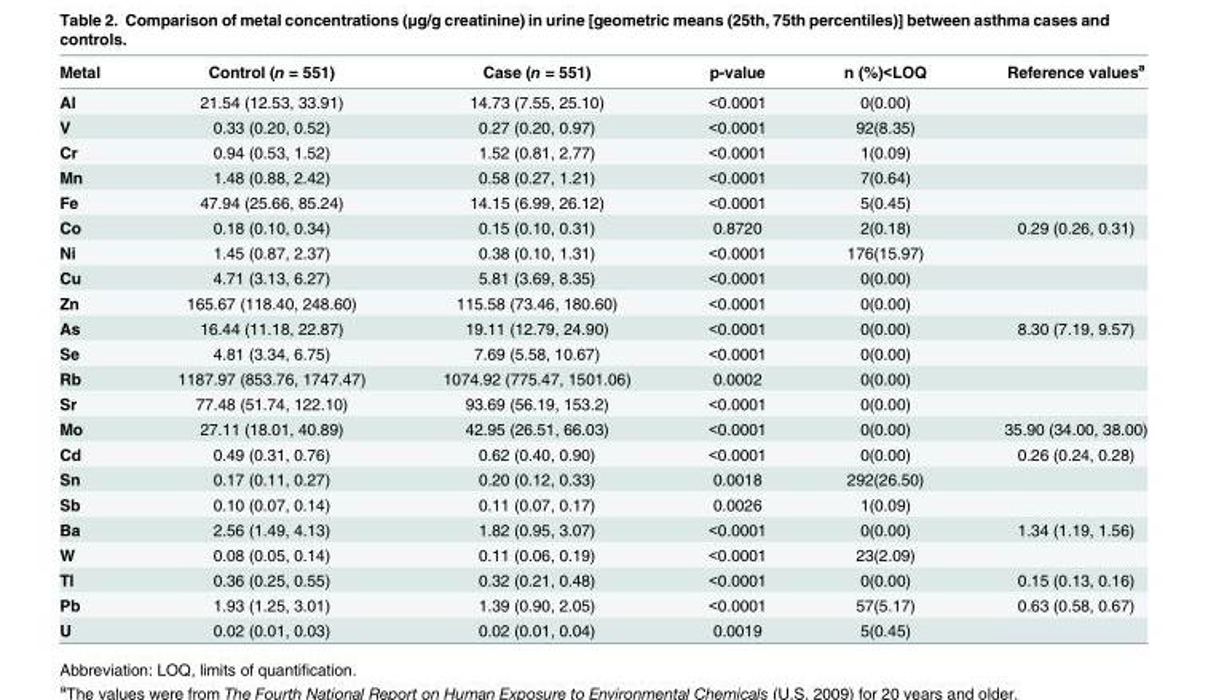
<table><thead><tr><td>Metal</td><td>Control (n = 551)</td><td>Case (n = 551)</td><td>p-value</td><td>n (%)&lt;LOQ</td><td>Reference values<sup>a</sup></td></tr></thead><tbody><tr><td>Al</td><td>21.54 (12.53, 33.91)</td><td>14.73 (7.55, 25.10)</td><td>&lt;0.0001</td><td>0(0.00)</td><td></td></tr><tr><td>V</td><td>0.33 (0.20, 0.52)</td><td>0.27 (0.20, 0.97)</td><td>&lt;0.0001</td><td>92(8.35)</td><td></td></tr><tr><td>Cr</td><td>0.94 (0.53, 1.52)</td><td>1.52 (0.81, 2.77)</td><td>&lt;0.0001</td><td>1(0.09)</td><td></td></tr><tr><td>Mn</td><td>1.48 (0.88, 2.42)</td><td>0.58 (0.27, 1.21)</td><td>&lt;0.0001</td><td>7(0.64)</td><td></td></tr><tr><td>Fe</td><td>47.94 (25.66, 85.24)</td><td>14.15 (6.99, 26.12)</td><td>&lt;0.0001</td><td>5(0.45)</td><td></td></tr><tr><td>Co</td><td>0.18 (0.10, 0.34)</td><td>0.15 (0.10, 0.31)</td><td>0.8720</td><td>2(0.18)</td><td>0.29 (0.26, 0.31)</td></tr><tr><td>Ni</td><td>1.45 (0.87, 2.37)</td><td>0.38 (0.10, 1.31)</td><td>&lt;0.0001</td><td>176(15.97)</td><td></td></tr><tr><td>Cu</td><td>4.71 (3.13, 6.27)</td><td>5.81 (3.69, 8.35)</td><td>&lt;0.0001</td><td>0(0.00)</td><td></td></tr><tr><td>Zn</td><td>165.67 (118.40, 248.60)</td><td>115.58 (73.46, 180.60)</td><td>&lt;0.0001</td><td>0(0.00)</td><td></td></tr><tr><td>As</td><td>16.44 (11.18, 22.87)</td><td>19.11 (12.79, 24.90)</td><td>&lt;0.0001</td><td>0(0.00)</td><td>8.30 (7.19, 9.57)</td></tr><tr><td>Se</td><td>4.81 (3.34, 6.75)</td><td>7.69 (5.58, 10.67)</td><td>&lt;0.0001</td><td>0(0.00)</td><td></td></tr><tr><td>Rb</td><td>1187.97 (853.76, 1747.47)</td><td>1074.92 (775.47, 1501.06)</td><td>0.0002</td><td>0(0.00)</td><td></td></tr><tr><td>Sr</td><td>77.48 (51.74, 122.10)</td><td>93.69 (56.19, 153.2)</td><td>&lt;0.0001</td><td>0(0.00)</td><td></td></tr><tr><td>Mo</td><td>27.11 (18.01, 40.89)</td><td>42.95 (26.51, 66.03)</td><td>&lt;0.0001</td><td>0(0.00)</td><td>35.90 (34.00, 38.00)</td></tr><tr><td>Cd</td><td>0.49 (0.31, 0.76)</td><td>0.62 (0.40, 0.90)</td><td>&lt;0.0001</td><td>0(0.00)</td><td>0.26 (0.24, 0.28)</td></tr><tr><td>Sn</td><td>0.17 (0.11, 0.27)</td><td>0.20 (0.12, 0.33)</td><td>0.0018</td><td>292(26.50)</td><td></td></tr><tr><td>Sb</td><td>0.10 (0.07, 0.14)</td><td>0.11 (0.07, 0.17)</td><td>0.0026</td><td>1(0.09)</td><td></td></tr><tr><td>Ba</td><td>2.56 (1.49, 4.13)</td><td>1.82 (0.95, 3.07)</td><td>&lt;0.0001</td><td>0(0.00)</td><td>1.34 (1.19, 1.56)</td></tr><tr><td>W</td><td>0.08 (0.05, 0.14)</td><td>0.11 (0.06, 0.19)</td><td>&lt;0.0001</td><td>23(2.09)</td><td></td></tr><tr><td>Tl</td><td>0.36 (0.25, 0.55)</td><td>0.32 (0.21, 0.48)</td><td>&lt;0.0001</td><td>0(0.00)</td><td>0.15 (0.13, 0.16)</td></tr><tr><td>Pb</td><td>1.93 (1.25, 3.01)</td><td>1.39 (0.90, 2.05)</td><td>&lt;0.0001</td><td>57(5.17)</td><td>0.63 (0.58, 0.67)</td></tr><tr><td>U</td><td>0.02 (0.01, 0.03)</td><td>0.02 (0.01, 0.04)</td><td>0.0019</td><td>5(0.45)</td><td></td></tr></tbody></table>